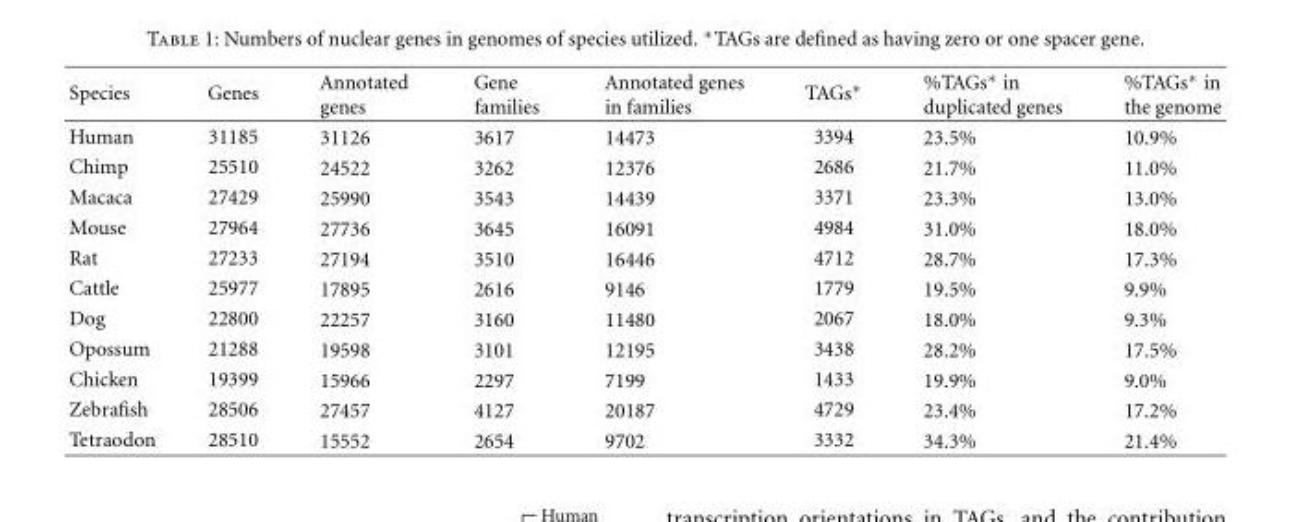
<table><thead><tr><td>Species</td><td>Genes</td><td>Annotated genes</td><td>Gene families</td><td>Annotated genes in families</td><td>TAGs∗</td><td>%TAGs∗ in duplicated genes</td><td>%TAGs∗ in the genome</td></tr></thead><tbody><tr><td>Human</td><td>31185</td><td>31126</td><td>3617</td><td>14473</td><td>3394</td><td>23.5%</td><td>10.9%</td></tr><tr><td>Chimp</td><td>25510</td><td>24522</td><td>3262</td><td>12376</td><td>2686</td><td>21.7%</td><td>11.0%</td></tr><tr><td>Macaca</td><td>27429</td><td>25990</td><td>3543</td><td>14439</td><td>3371</td><td>23.3%</td><td>13.0%</td></tr><tr><td>Mouse</td><td>27964</td><td>27736</td><td>3645</td><td>16091</td><td>4984</td><td>31.0%</td><td>18.0%</td></tr><tr><td>Rat</td><td>27233</td><td>27194</td><td>3510</td><td>16446</td><td>4712</td><td>28.7%</td><td>17.3%</td></tr><tr><td>Cattle</td><td>25977</td><td>17895</td><td>2616</td><td>9146</td><td>1779</td><td>19.5%</td><td>9.9%</td></tr><tr><td>Dog</td><td>22800</td><td>22257</td><td>3160</td><td>11480</td><td>2067</td><td>18.0%</td><td>9.3%</td></tr><tr><td>Opossum</td><td>21288</td><td>19598</td><td>3101</td><td>12195</td><td>3438</td><td>28.2%</td><td>17.5%</td></tr><tr><td>Chicken</td><td>19399</td><td>15966</td><td>2297</td><td>7199</td><td>1433</td><td>19.9%</td><td>9.0%</td></tr><tr><td>Zebrafish</td><td>28506</td><td>27457</td><td>4127</td><td>20187</td><td>4729</td><td>23.4%</td><td>17.2%</td></tr><tr><td>Tetraodon</td><td>28510</td><td>15552</td><td>2654</td><td>9702</td><td>3332</td><td>34.3%</td><td>21.4%</td></tr></tbody></table>